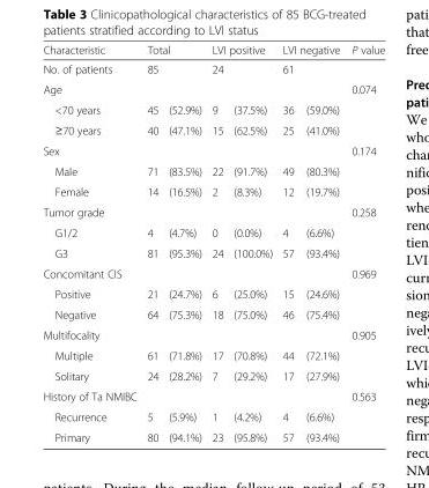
<table><thead><tr><td rowspan="2">Characteristic No. of patients</td><td colspan="2">Total</td><td colspan="2">LVI positive</td><td colspan="2">LVI negative</td><td rowspan="2">P value</td></tr><tr><td>85</td><td></td><td>24</td><td></td><td>61</td><td></td></tr></thead><tbody><tr><td>Age</td><td></td><td></td><td></td><td></td><td></td><td></td><td>0.074</td></tr><tr><td>&lt;70 years</td><td>45</td><td>(52.9%)</td><td>9</td><td>(37.5%)</td><td>36</td><td>(59.0%)</td><td></td></tr><tr><td>≥70 years</td><td>40</td><td>(47.1%)</td><td>15</td><td>(62.5%)</td><td>25</td><td>(41.0%)</td><td></td></tr><tr><td>Sex</td><td></td><td></td><td></td><td></td><td></td><td></td><td>0.174</td></tr><tr><td>Male</td><td>71</td><td>(83.5%)</td><td>22</td><td>(91.7%)</td><td>49</td><td>(80.3%)</td><td></td></tr><tr><td>Female</td><td>14</td><td>(16.5%)</td><td>2</td><td>(8.3%)</td><td>12</td><td>(19.7%)</td><td></td></tr><tr><td>Tumor grade</td><td></td><td></td><td></td><td></td><td></td><td></td><td>0.258</td></tr><tr><td>G1/2</td><td>4</td><td>(4.7%)</td><td>0</td><td>(0.0%)</td><td>4</td><td>(6.6%)</td><td></td></tr><tr><td>G3</td><td>81</td><td>(95.3%)</td><td>24</td><td>(100.0%)</td><td>57</td><td>(93.4%)</td><td></td></tr><tr><td>Concomitant CIS</td><td></td><td></td><td></td><td></td><td></td><td></td><td>0.969</td></tr><tr><td>Positive</td><td>21</td><td>(24.7%)</td><td>6</td><td>(25.0%)</td><td>15</td><td>(24.6%)</td><td></td></tr><tr><td>Negative</td><td>64</td><td>(75.3%)</td><td>18</td><td>(75.0%)</td><td>46</td><td>(75.4%)</td><td></td></tr><tr><td>Multifocality</td><td></td><td></td><td></td><td></td><td></td><td></td><td>0.905</td></tr><tr><td>Multiple</td><td>61</td><td>(71.8%)</td><td>17</td><td>(70.8%)</td><td>44</td><td>(72.1%)</td><td></td></tr><tr><td>Solitary</td><td>24</td><td>(28.2%)</td><td>7</td><td>(29.2%)</td><td>17</td><td>(27.9%)</td><td></td></tr><tr><td>History of Ta NMIBC</td><td></td><td></td><td></td><td></td><td></td><td></td><td>0.563</td></tr><tr><td>Recurrence</td><td>5</td><td>(5.9%)</td><td>1</td><td>(4.2%)</td><td>4</td><td>(6.6%)</td><td></td></tr><tr><td>Primary</td><td>80</td><td>(94.1%)</td><td>23</td><td>(95.8%)</td><td>57</td><td>(93.4%)</td><td></td></tr></tbody></table>